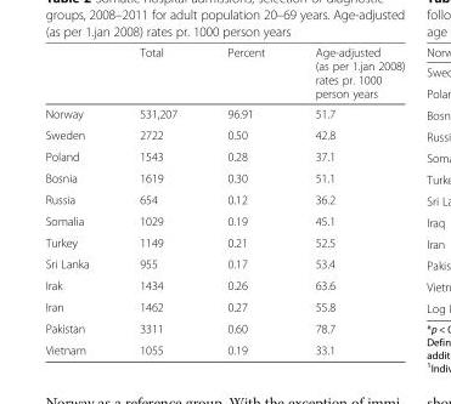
<table><thead><tr><td></td><td>Total</td><td>Percent</td><td>Age-adjusted (as per 1.jan 2008) rates pr. 1000 person years</td></tr></thead><tbody><tr><td>Norway</td><td>531,207</td><td>96.91</td><td>51.7</td></tr><tr><td>Sweden</td><td>2722</td><td>0.50</td><td>42.8</td></tr><tr><td>Poland</td><td>1543</td><td>0.28</td><td>37.1</td></tr><tr><td>Bosnia</td><td>1619</td><td>0.30</td><td>51.1</td></tr><tr><td>Russia</td><td>654</td><td>0.12</td><td>36.2</td></tr><tr><td>Somalia</td><td>1029</td><td>0.19</td><td>45.1</td></tr><tr><td>Turkey</td><td>1149</td><td>0.21</td><td>52.5</td></tr><tr><td>Sri Lanka</td><td>955</td><td>0.17</td><td>53.4</td></tr><tr><td>Irak</td><td>1434</td><td>0.26</td><td>63.6</td></tr><tr><td>Iran</td><td>1462</td><td>0.27</td><td>55.8</td></tr><tr><td>Pakistan</td><td>3311</td><td>0.60</td><td>78.7</td></tr><tr><td>Vietnam</td><td>1055</td><td>0.19</td><td>33.1</td></tr></tbody></table>